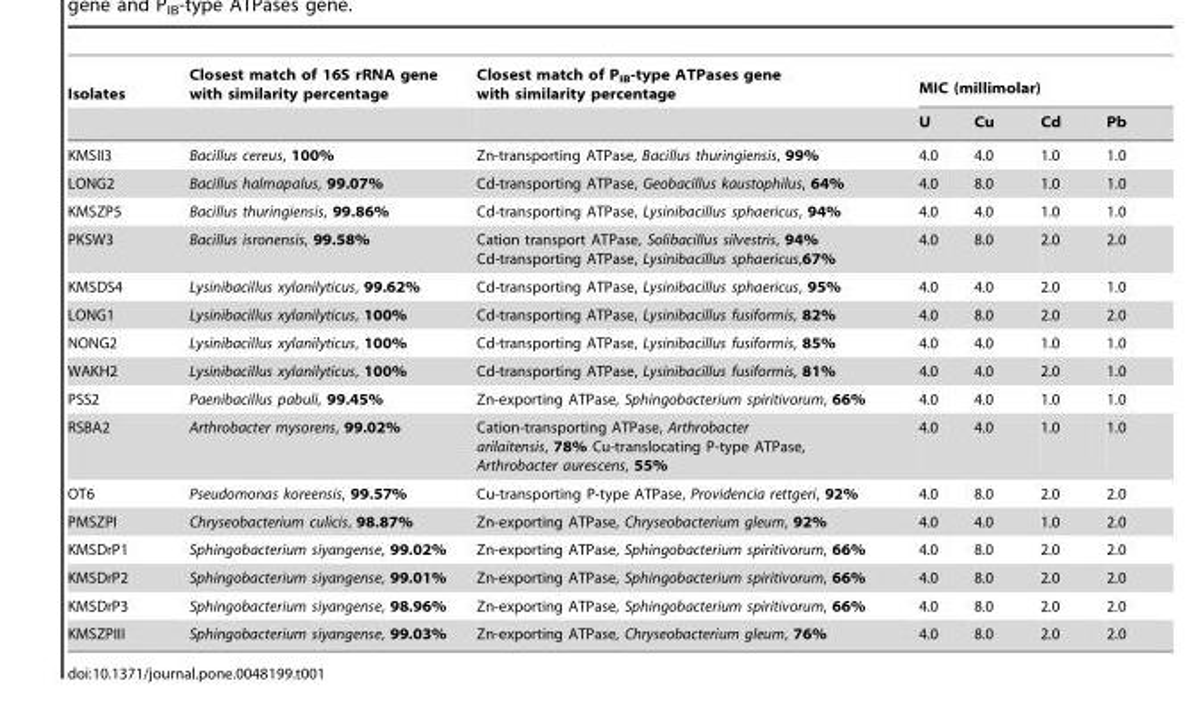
<table><thead><tr><td rowspan="2">Isolates</td><td rowspan="2">Closest match of 16S rRNA gene with similarity percentage</td><td rowspan="2">Closest match of P<sub>IB</sub>-type ATPases gene with similarity percentage</td><td colspan="4">MIC (millimolar)</td></tr><tr><td>U</td><td>Cu</td><td>Cd</td><td>Pb</td></tr></thead><tbody><tr><td>KMSII3</td><td>Bacillus cereus, 100%</td><td>Zn-transporting ATPase, Bacillus thuringiensis, 99%</td><td>4.0</td><td>4.0</td><td>1.0</td><td>1.0</td></tr><tr><td>LONG2</td><td>Bacillus halmapalus, 99.07%</td><td>Cd-transporting ATPase, Geobacillus kaustophilus, 64%</td><td>4.0</td><td>8.0</td><td>1.0</td><td>1.0</td></tr><tr><td>KMSZP5</td><td>Bacillus thuringiensis, 99.86%</td><td>Cd-transporting ATPase, Lysinibacillus sphaericus, 94%</td><td>4.0</td><td>4.0</td><td>1.0</td><td>1.0</td></tr><tr><td>PKSW3</td><td>Bacillus isronensis, 99.58%</td><td>Cation transport ATPase, Solibacillus silvestris, 94% Cd-transporting ATPase, Lysinibacillus sphaericus,67%</td><td>4.0</td><td>8.0</td><td>2.0</td><td>2.0</td></tr><tr><td>KMSDS4</td><td>Lysinibacillus xylanilyticus, 99.62%</td><td>Cd-transporting ATPase, Lysinibacillus sphaericus, 95%</td><td>4.0</td><td>4.0</td><td>2.0</td><td>1.0</td></tr><tr><td>LONG1</td><td>Lysinibacillus xylanilyticus, 100%</td><td>Cd-transporting ATPase, Lysinibacillus fusiformis, 82%</td><td>4.0</td><td>8.0</td><td>2.0</td><td>2.0</td></tr><tr><td>NONG2</td><td>Lysinibacillus xylanilyticus, 100%</td><td>Cd-transporting ATPase, Lysinibacillus fusiformis, 85%</td><td>4.0</td><td>4.0</td><td>1.0</td><td>1.0</td></tr><tr><td>WAKH2</td><td>Lysinibacillus xylanilyticus, 100%</td><td>Cd-transporting ATPase, Lysinibacillus fusiformis, 81%</td><td>4.0</td><td>4.0</td><td>2.0</td><td>1.0</td></tr><tr><td>PSS2</td><td>Paenibacillus pabuli, 99.45%</td><td>Zn-exporting ATPase, Sphingobacterium spiritivorum, 66%</td><td>4.0</td><td>4.0</td><td>1.0</td><td>1.0</td></tr><tr><td>RSBA2</td><td>Arthrobacter mysorens, 99.02%</td><td>Cation-transporting ATPase, Arthrobacter arilaitensis, 78% Cu-translocating P-type ATPase, Arthrobacter aurescens, 55%</td><td>4.0</td><td>4.0</td><td>1.0</td><td>1.0</td></tr><tr><td>OT6</td><td>Pseudomonas koreensis, 99.57%</td><td>Cu-transporting P-type ATPase, Providencia rettgeri, 92%</td><td>4.0</td><td>8.0</td><td>2.0</td><td>2.0</td></tr><tr><td>PMSZPI</td><td>Chryseobacterium culicis, 98.87%</td><td>Zn-exporting ATPase, Chryseobacterium gleum, 92%</td><td>4.0</td><td>4.0</td><td>1.0</td><td>2.0</td></tr><tr><td>KMSDrP1</td><td>Sphingobacterium siyangense, 99.02%</td><td>Zn-exporting ATPase, Sphingobacterium spiritivorum, 66%</td><td>4.0</td><td>8.0</td><td>2.0</td><td>2.0</td></tr><tr><td>KMSDrP2</td><td>Sphingobacterium siyangense, 99.01%</td><td>Zn-exporting ATPase, Sphingobacterium spiritivorum, 66%</td><td>4.0</td><td>8.0</td><td>2.0</td><td>2.0</td></tr><tr><td>KMSDrP3</td><td>Sphingobacterium siyangense, 98.96%</td><td>Zn-exporting ATPase, Sphingobacterium spiritivorum, 66%</td><td>4.0</td><td>8.0</td><td>2.0</td><td>2.0</td></tr><tr><td>KMSZPIII</td><td>Sphingobacterium siyangense, 99.03%</td><td>Zn-exporting ATPase, Chryseobacterium gleum, 76%</td><td>4.0</td><td>8.0</td><td>2.0</td><td>2.0</td></tr></tbody></table>